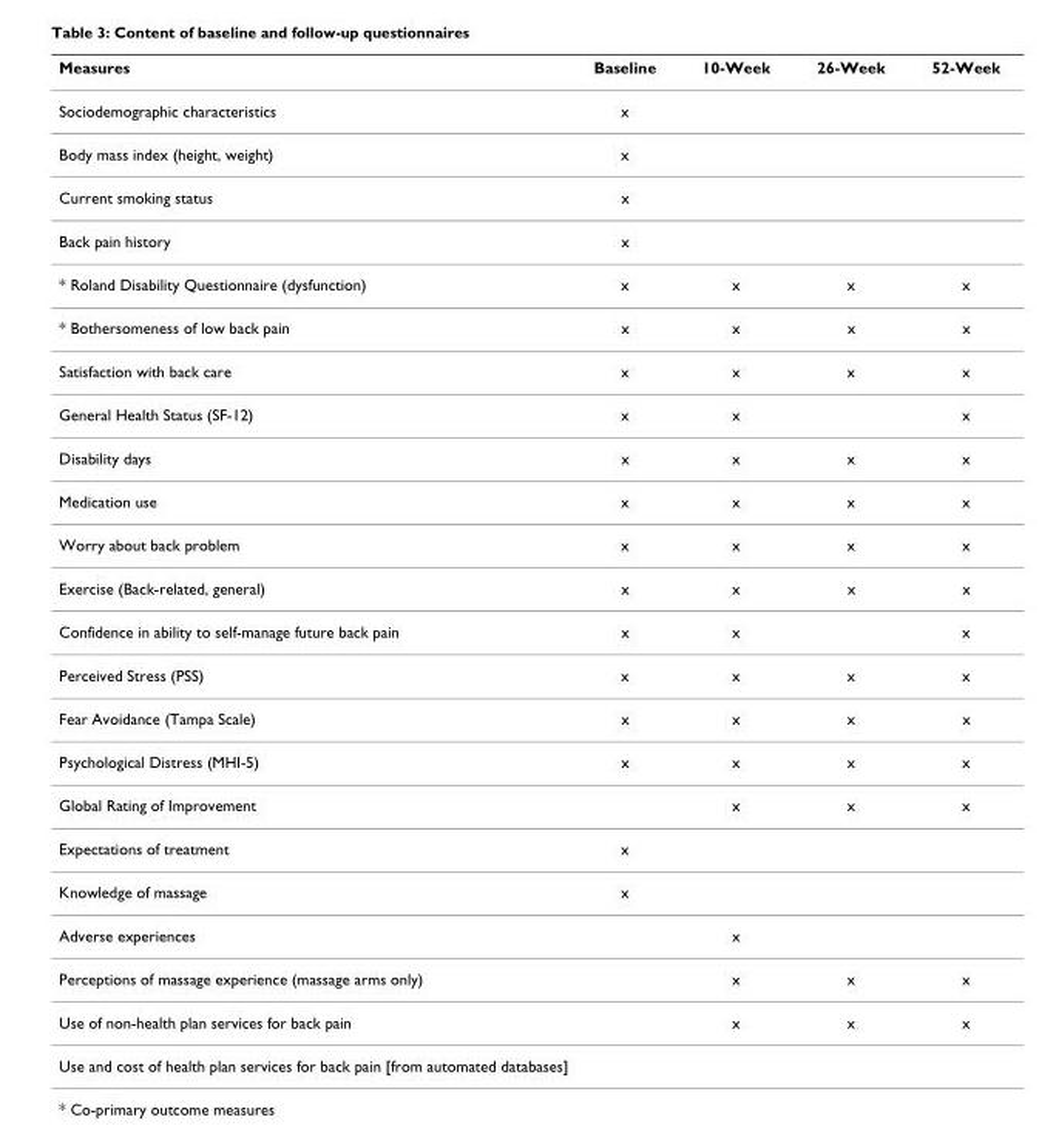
<table><thead><tr><td>Measures</td><td>Baseline</td><td>10-Week</td><td>26-Week</td><td>52-Week</td></tr></thead><tbody><tr><td>Sociodemographic characteristics</td><td>x</td><td></td><td></td><td></td></tr><tr><td>Body mass index (height, weight)</td><td>x</td><td></td><td></td><td></td></tr><tr><td>Current smoking status</td><td>x</td><td></td><td></td><td></td></tr><tr><td>Back pain history</td><td>x</td><td></td><td></td><td></td></tr><tr><td>* Roland Disability Questionnaire (dysfunction)</td><td>x</td><td>x</td><td>x</td><td>x</td></tr><tr><td>* Bothersomeness of low back pain</td><td>x</td><td>x</td><td>x</td><td>x</td></tr><tr><td>Satisfaction with back care</td><td>x</td><td>x</td><td>x</td><td>x</td></tr><tr><td>General Health Status (SF-12)</td><td>x</td><td>x</td><td></td><td>x</td></tr><tr><td>Disability days</td><td>x</td><td>x</td><td>x</td><td>x</td></tr><tr><td>Medication use</td><td>x</td><td>x</td><td>x</td><td>x</td></tr><tr><td>Worry about back problem</td><td>x</td><td>x</td><td>x</td><td>x</td></tr><tr><td>Exercise (Back-related, general)</td><td>x</td><td>x</td><td>x</td><td>x</td></tr><tr><td>Confidence in ability to self-manage future back pain</td><td>x</td><td>x</td><td></td><td>x</td></tr><tr><td>Perceived Stress (PSS)</td><td>x</td><td>x</td><td>x</td><td>x</td></tr><tr><td>Fear Avoidance (Tampa Scale)</td><td>x</td><td>x</td><td>x</td><td>x</td></tr><tr><td>Psychological Distress (MHI-5)</td><td>x</td><td>x</td><td>x</td><td>x</td></tr><tr><td>Global Rating of Improvement</td><td></td><td>x</td><td>x</td><td>x</td></tr><tr><td>Expectations of treatment</td><td>x</td><td></td><td></td><td></td></tr><tr><td>Knowledge of massage</td><td>x</td><td></td><td></td><td></td></tr><tr><td>Adverse experiences</td><td></td><td>x</td><td></td><td></td></tr><tr><td>Perceptions of massage experience (massage arms only)</td><td></td><td>x</td><td>x</td><td>x</td></tr><tr><td>Use of non-health plan services for back pain</td><td></td><td>x</td><td>x</td><td>x</td></tr><tr><td colspan="5">Use and cost of health plan services for back pain [from automated databases]</td></tr></tbody></table>